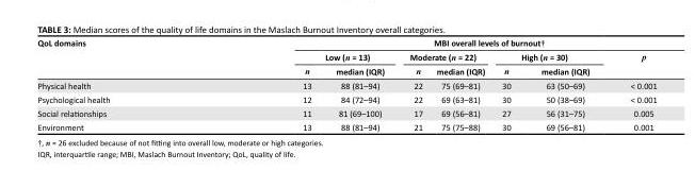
<table><thead><tr><td rowspan="3">QoL domains</td><td colspan="7">MBI overall levels of burnout†</td></tr><tr><td colspan="2">Low (n = 13)</td><td colspan="2">Moderate (n = 22)</td><td colspan="2">High (n = 30)</td><td rowspan="2">p</td></tr><tr><td>n</td><td>median (IQR)</td><td>n</td><td>median (IQR)</td><td>n</td><td>median (IQR)</td></tr></thead><tbody><tr><td>Physical health</td><td>13</td><td>88 (81–94)</td><td>22</td><td>75 (69–81)</td><td>30</td><td>63 (50–69)</td><td>&lt; 0.001</td></tr><tr><td>Psychological health</td><td>12</td><td>84 (72–94)</td><td>22</td><td>69 (63–81)</td><td>30</td><td>50 (38–69)</td><td>&lt; 0.001</td></tr><tr><td>Social relationships</td><td>11</td><td>81 (69–100)</td><td>17</td><td>69 (56–81)</td><td>27</td><td>56 (31–75)</td><td>0.005</td></tr><tr><td>Environment</td><td>13</td><td>88 (81–94)</td><td>21</td><td>75 (75–88)</td><td>30</td><td>69 (56–81)</td><td>0.001</td></tr></tbody></table>